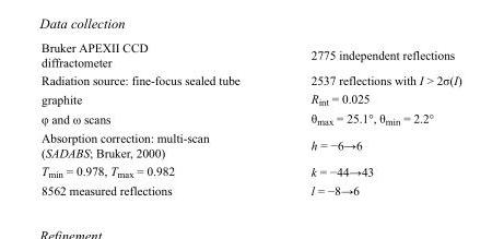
<table><tbody><tr><td>Bruker APEXII CCD diffractometer</td><td>2775 independent reflections</td></tr><tr><td>Radiation source: fine-focus sealed tube</td><td>2537 reflections with I &gt; 2σ(I)</td></tr><tr><td>graphite</td><td>R<sub>int</sub> = 0.025</td></tr><tr><td>φ and ω scans</td><td>θ<sub>max</sub> = 25.1°, θ<sub>min</sub> = 2.2°</td></tr><tr><td>Absorption correction: multi-scan (SADABS; Bruker, 2000)</td><td>h = −6→6</td></tr><tr><td>T<sub>min</sub> = 0.978, T<sub>max</sub> = 0.982</td><td>k = −44→43</td></tr><tr><td>8562 measured reflections</td><td>l = −8→6</td></tr></tbody></table>